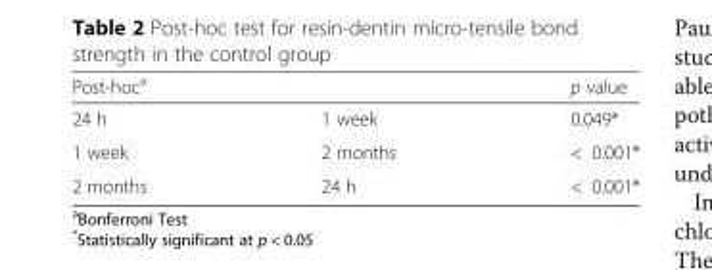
<table><thead><tr><td colspan="2">Post-hoc<sup>a</sup></td><td rowspan="2">p value 0.049*</td></tr><tr><td>24 h</td><td>1 week</td></tr></thead><tbody><tr><td>1 week</td><td>2 months</td><td>&lt; 0.001*</td></tr><tr><td>2 months</td><td>24 h</td><td>&lt; 0.001*</td></tr></tbody></table>